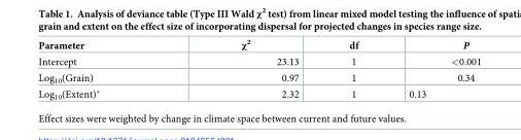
<table><thead><tr><td>Parameter</td><td>χ<sup>2</sup></td><td>df</td><td>P</td></tr></thead><tbody><tr><td>Intercept</td><td>23.13</td><td>1</td><td>&lt;0.001</td></tr><tr><td>Log<sub>10</sub>(Grain)</td><td>0.97</td><td>1</td><td>0.34</td></tr><tr><td>Log<sub>10</sub>(Extent)*</td><td>2.32</td><td>1</td><td>0.13</td></tr></tbody></table>